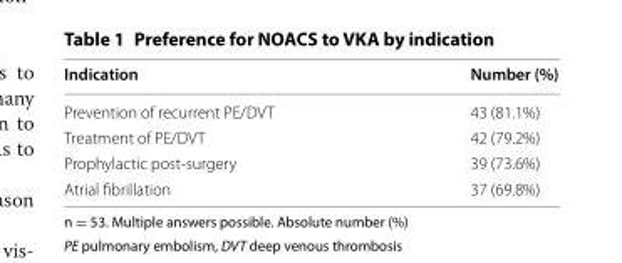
<table><thead><tr><td>Indication</td><td>Number (%)</td></tr></thead><tbody><tr><td>Prevention of recurrent PE/DVT</td><td>43 (81.1%)</td></tr><tr><td>Treatment of PE/DVT</td><td>42 (79.2%)</td></tr><tr><td>Prophylactic post-surgery</td><td>39 (73.6%)</td></tr><tr><td>Atrial fibrillation</td><td>37 (69.8%)</td></tr></tbody></table>